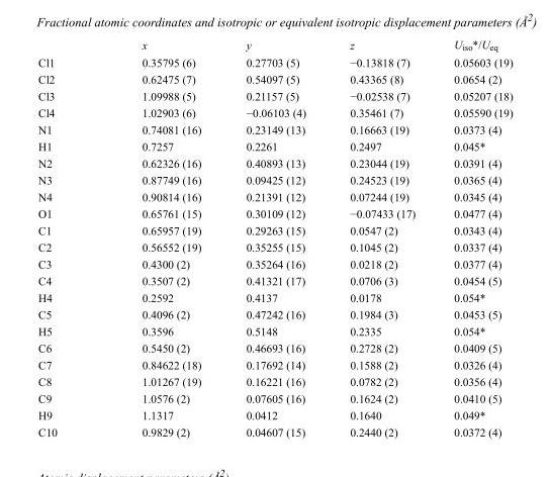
<table><thead><tr><td></td><td>x</td><td>y</td><td>z</td><td>U<sub>iso</sub>*/U<sub>eq</sub></td></tr></thead><tbody><tr><td>Cl1</td><td>0.35795 (6)</td><td>0.27703 (5)</td><td>−0.13818 (7)</td><td>0.05603 (19)</td></tr><tr><td>Cl2</td><td>0.62475 (7)</td><td>0.54097 (5)</td><td>0.43365 (8)</td><td>0.0654 (2)</td></tr><tr><td>Cl3</td><td>1.09988 (5)</td><td>0.21157 (5)</td><td>−0.02538 (7)</td><td>0.05207 (18)</td></tr><tr><td>Cl4</td><td>1.02903 (6)</td><td>−0.06103 (4)</td><td>0.35461 (7)</td><td>0.05590 (19)</td></tr><tr><td>N1</td><td>0.74081 (16)</td><td>0.23149 (13)</td><td>0.16663 (19)</td><td>0.0373 (4)</td></tr><tr><td>H1</td><td>0.7257</td><td>0.2261</td><td>0.2497</td><td>0.045*</td></tr><tr><td>N2</td><td>0.62326 (16)</td><td>0.40893 (13)</td><td>0.23044 (19)</td><td>0.0391 (4)</td></tr><tr><td>N3</td><td>0.87749 (16)</td><td>0.09425 (12)</td><td>0.24523 (19)</td><td>0.0365 (4)</td></tr><tr><td>N4</td><td>0.90814 (16)</td><td>0.21391 (12)</td><td>0.07244 (19)</td><td>0.0345 (4)</td></tr><tr><td>O1</td><td>0.65761 (15)</td><td>0.30109 (12)</td><td>−0.07433 (17)</td><td>0.0477 (4)</td></tr><tr><td>C1</td><td>0.65957 (19)</td><td>0.29263 (15)</td><td>0.0547 (2)</td><td>0.0343 (4)</td></tr><tr><td>C2</td><td>0.56552 (19)</td><td>0.35255 (15)</td><td>0.1045 (2)</td><td>0.0337 (4)</td></tr><tr><td>C3</td><td>0.4300 (2)</td><td>0.35264 (16)</td><td>0.0218 (2)</td><td>0.0377 (4)</td></tr><tr><td>C4</td><td>0.3507 (2)</td><td>0.41321 (17)</td><td>0.0706 (3)</td><td>0.0454 (5)</td></tr><tr><td>H4</td><td>0.2592</td><td>0.4137</td><td>0.0178</td><td>0.054*</td></tr><tr><td>C5</td><td>0.4096 (2)</td><td>0.47242 (16)</td><td>0.1984 (3)</td><td>0.0453 (5)</td></tr><tr><td>H5</td><td>0.3596</td><td>0.5148</td><td>0.2335</td><td>0.054*</td></tr><tr><td>C6</td><td>0.5450 (2)</td><td>0.46693 (16)</td><td>0.2728 (2)</td><td>0.0409 (5)</td></tr><tr><td>C7</td><td>0.84622 (18)</td><td>0.17692 (14)</td><td>0.1588 (2)</td><td>0.0326 (4)</td></tr><tr><td>C8</td><td>1.01267 (19)</td><td>0.16221 (16)</td><td>0.0782 (2)</td><td>0.0356 (4)</td></tr><tr><td>C9</td><td>1.0576 (2)</td><td>0.07605 (16)</td><td>0.1624 (2)</td><td>0.0410 (5)</td></tr><tr><td>H9</td><td>1.1317</td><td>0.0412</td><td>0.1640</td><td>0.049*</td></tr><tr><td>C10</td><td>0.9829 (2)</td><td>0.04607 (15)</td><td>0.2440 (2)</td><td>0.0372 (4)</td></tr></tbody></table>